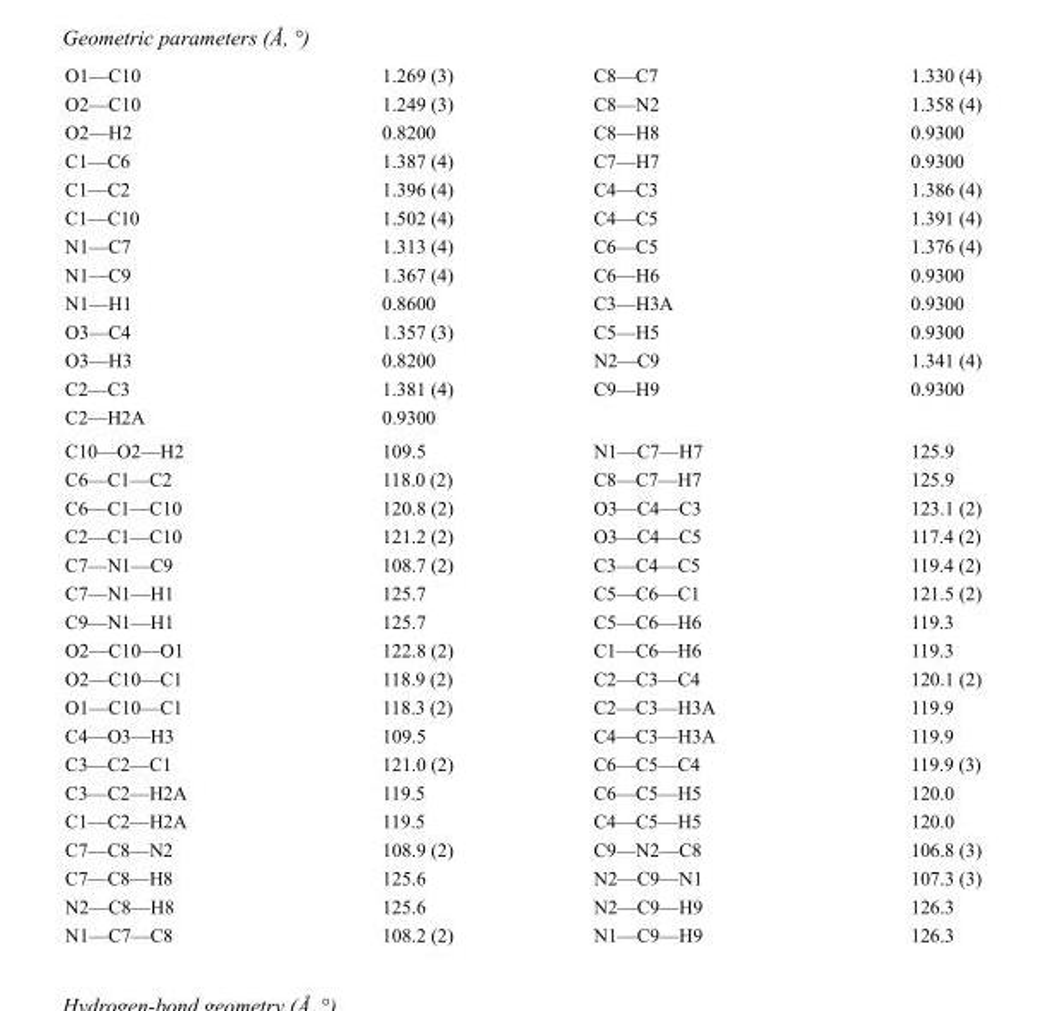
<table><tbody><tr><td>O1—C10</td><td>1.269 (3)</td><td>C8—C7</td><td>1.330 (4)</td></tr><tr><td>O2—C10</td><td>1.249 (3)</td><td>C8—N2</td><td>1.358 (4)</td></tr><tr><td>O2—H2</td><td>0.8200</td><td>C8—H8</td><td>0.9300</td></tr><tr><td>C1—C6</td><td>1.387 (4)</td><td>C7—H7</td><td>0.9300</td></tr><tr><td>C1—C2</td><td>1.396 (4)</td><td>C4—C3</td><td>1.386 (4)</td></tr><tr><td>C1—C10</td><td>1.502 (4)</td><td>C4—C5</td><td>1.391 (4)</td></tr><tr><td>N1—C7</td><td>1.313 (4)</td><td>C6—C5</td><td>1.376 (4)</td></tr><tr><td>N1—C9</td><td>1.367 (4)</td><td>C6—H6</td><td>0.9300</td></tr><tr><td>N1—H1</td><td>0.8600</td><td>C3—H3A</td><td>0.9300</td></tr><tr><td>O3—C4</td><td>1.357 (3)</td><td>C5—H5</td><td>0.9300</td></tr><tr><td>O3—H3</td><td>0.8200</td><td>N2—C9</td><td>1.341 (4)</td></tr><tr><td>C2—C3</td><td>1.381 (4)</td><td>C9—H9</td><td>0.9300</td></tr><tr><td>C2—H2A</td><td>0.9300</td><td></td><td></td></tr><tr><td>C10—O2—H2</td><td>109.5</td><td>N1—C7—H7</td><td>125.9</td></tr><tr><td>C6—C1—C2</td><td>118.0 (2)</td><td>C8—C7—H7</td><td>125.9</td></tr><tr><td>C6—C1—C10</td><td>120.8 (2)</td><td>O3—C4—C3</td><td>123.1 (2)</td></tr><tr><td>C2—C1—C10</td><td>121.2 (2)</td><td>O3—C4—C5</td><td>117.4 (2)</td></tr><tr><td>C7—N1—C9</td><td>108.7 (2)</td><td>C3—C4—C5</td><td>119.4 (2)</td></tr><tr><td>C7—N1—H1</td><td>125.7</td><td>C5—C6—C1</td><td>121.5 (2)</td></tr><tr><td>C9—N1—H1</td><td>125.7</td><td>C5—C6—H6</td><td>119.3</td></tr><tr><td>O2—C10—O1</td><td>122.8 (2)</td><td>C1—C6—H6</td><td>119.3</td></tr><tr><td>O2—C10—C1</td><td>118.9 (2)</td><td>C2—C3—C4</td><td>120.1 (2)</td></tr><tr><td>O1—C10—C1</td><td>118.3 (2)</td><td>C2—C3—H3A</td><td>119.9</td></tr><tr><td>C4—O3—H3</td><td>109.5</td><td>C4—C3—H3A</td><td>119.9</td></tr><tr><td>C3—C2—C1</td><td>121.0 (2)</td><td>C6—C5—C4</td><td>119.9 (3)</td></tr><tr><td>C3—C2—H2A</td><td>119.5</td><td>C6—C5—H5</td><td>120.0</td></tr><tr><td>C1—C2—H2A</td><td>119.5</td><td>C4—C5—H5</td><td>120.0</td></tr><tr><td>C7—C8—N2</td><td>108.9 (2)</td><td>C9—N2—C8</td><td>106.8 (3)</td></tr><tr><td>C7—C8—H8</td><td>125.6</td><td>N2—C9—N1</td><td>107.3 (3)</td></tr><tr><td>N2—C8—H8</td><td>125.6</td><td>N2—C9—H9</td><td>126.3</td></tr><tr><td>N1—C7—C8</td><td>108.2 (2)</td><td>N1—C9—H9</td><td>126.3</td></tr></tbody></table>